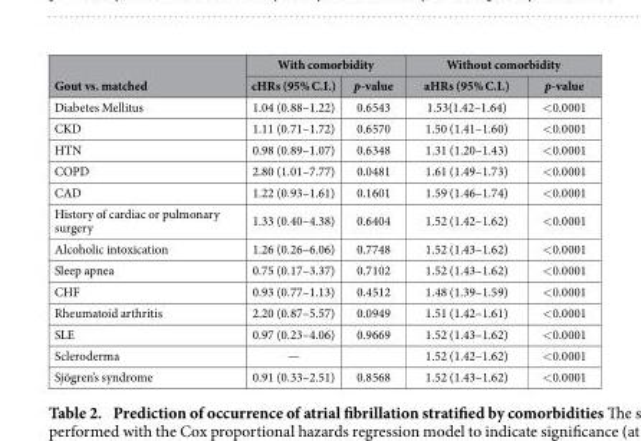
<table><thead><tr><td rowspan="2">Gout vs. matched</td><td colspan="2">With comorbidity</td><td colspan="2">Without comorbidity</td></tr><tr><td>cHRs (95% C.I.)</td><td>p-value</td><td>aHRs (95% C.I.)</td><td>p-value</td></tr></thead><tbody><tr><td>Diabetes Mellitus</td><td>1.04 (0.88–1.22)</td><td>0.6543</td><td>1.53(1.42–1.64)</td><td>&lt; 0.0001</td></tr><tr><td>CKD</td><td>1.11 (0.71–1.72)</td><td>0.6570</td><td>1.50 (1.41–1.60)</td><td>&lt; 0.0001</td></tr><tr><td>HTN</td><td>0.98 (0.89–1.07)</td><td>0.6348</td><td>1.31 (1.20–1.43)</td><td>&lt; 0.0001</td></tr><tr><td>COPD</td><td>2.80 (1.01–7.77)</td><td>0.0481</td><td>1.61 (1.49–1.73)</td><td>&lt; 0.0001</td></tr><tr><td>CAD</td><td>1.22 (0.93–1.61)</td><td>0.1601</td><td>1.59 (1.46–1.74)</td><td>&lt; 0.0001</td></tr><tr><td>History of cardiac or pulmonary surgery</td><td>1.33 (0.40–4.38)</td><td>0.6404</td><td>1.52 (1.42–1.62)</td><td>&lt; 0.0001</td></tr><tr><td>Alcoholic intoxication</td><td>1.26 (0.26–6.06)</td><td>0.7748</td><td>1.52 (1.43–1.62)</td><td>&lt; 0.0001</td></tr><tr><td>Sleep apnea</td><td>0.75 (0.17–3.37)</td><td>0.7102</td><td>1.52 (1.43–1.62)</td><td>&lt; 0.0001</td></tr><tr><td>CHF</td><td>0.93 (0.77–1.13)</td><td>0.4512</td><td>1.48 (1.39–1.59)</td><td>&lt; 0.0001</td></tr><tr><td>Rheumatoid arthritis</td><td>2.20 (0.87–5.57)</td><td>0.0949</td><td>1.51 (1.42–1.61)</td><td>&lt; 0.0001</td></tr><tr><td>SLE</td><td>0.97 (0.23–4.06)</td><td>0.9669</td><td>1.52 (1.43–1.62)</td><td>&lt; 0.0001</td></tr><tr><td>Scleroderma</td><td>—</td><td></td><td>1.52 (1.42–1.62)</td><td>&lt; 0.0001</td></tr><tr><td>Sjögren’s syndrome</td><td>0.91 (0.33–2.51)</td><td>0.8568</td><td>1.52 (1.43–1.62)</td><td>&lt; 0.0001</td></tr></tbody></table>